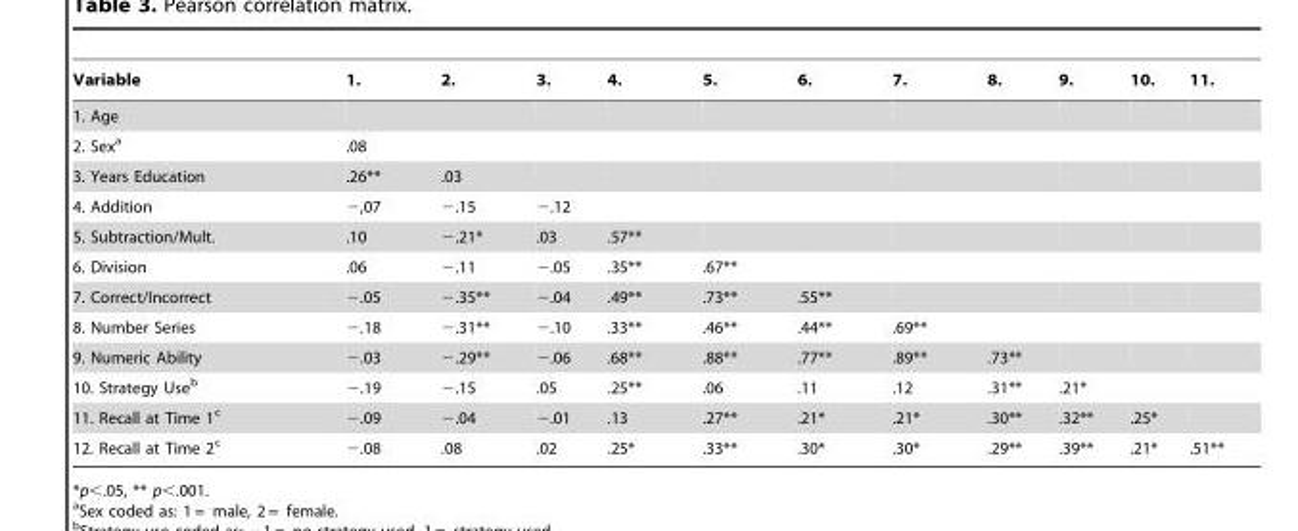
<table><thead><tr><td>Variable</td><td>1.</td><td>2.</td><td>3.</td><td>4.</td><td>5.</td><td>6.</td><td>7.</td><td>8.</td><td>9.</td><td>10.</td><td>11.</td></tr></thead><tbody><tr><td colspan="12">1. Age</td></tr><tr><td>2. Sex<sup>a</sup></td><td>.08</td><td></td><td></td><td></td><td></td><td></td><td></td><td></td><td></td><td></td><td></td></tr><tr><td>3. Years Education</td><td>.26**</td><td>.03</td><td></td><td></td><td></td><td></td><td></td><td></td><td></td><td></td><td></td></tr><tr><td>4. Addition</td><td>−,07</td><td>−.15</td><td>−.12</td><td></td><td></td><td></td><td></td><td></td><td></td><td></td><td></td></tr><tr><td>5. Subtraction/Mult.</td><td>.10</td><td>−.21*</td><td>.03</td><td>.57**</td><td></td><td></td><td></td><td></td><td></td><td></td><td></td></tr><tr><td>6. Division</td><td>.06</td><td>−.11</td><td>−.05</td><td>.35**</td><td>.67**</td><td></td><td></td><td></td><td></td><td></td><td></td></tr><tr><td>7. Correct/Incorrect</td><td>−.05</td><td>−.35**</td><td>−.04</td><td>.49**</td><td>.73**</td><td>.55**</td><td></td><td></td><td></td><td></td><td></td></tr><tr><td>8. Number Series</td><td>−.18</td><td>−.31**</td><td>−.10</td><td>.33**</td><td>.46**</td><td>.44**</td><td>.69**</td><td></td><td></td><td></td><td></td></tr><tr><td>9. Numeric Ability</td><td>−.03</td><td>−.29**</td><td>−.06</td><td>.68**</td><td>.88**</td><td>.77**</td><td>.89**</td><td>.73**</td><td></td><td></td><td></td></tr><tr><td>10. Strategy Use<sup>b</sup></td><td>−.19</td><td>−.15</td><td>.05</td><td>.25**</td><td>.06</td><td>.11</td><td>.12</td><td>.31**</td><td>.21*</td><td></td><td></td></tr><tr><td>11. Recall at Time 1<sup>c</sup></td><td>−.09</td><td>−.04</td><td>−.01</td><td>.13</td><td>.27**</td><td>.21*</td><td>.21*</td><td>.30**</td><td>.32**</td><td>.25*</td><td></td></tr><tr><td>12. Recall at Time 2<sup>c</sup></td><td>−.08</td><td>.08</td><td>.02</td><td>.25*</td><td>.33**</td><td>.30*</td><td>.30*</td><td>.29**</td><td>.39**</td><td>.21*</td><td>.51**</td></tr></tbody></table>